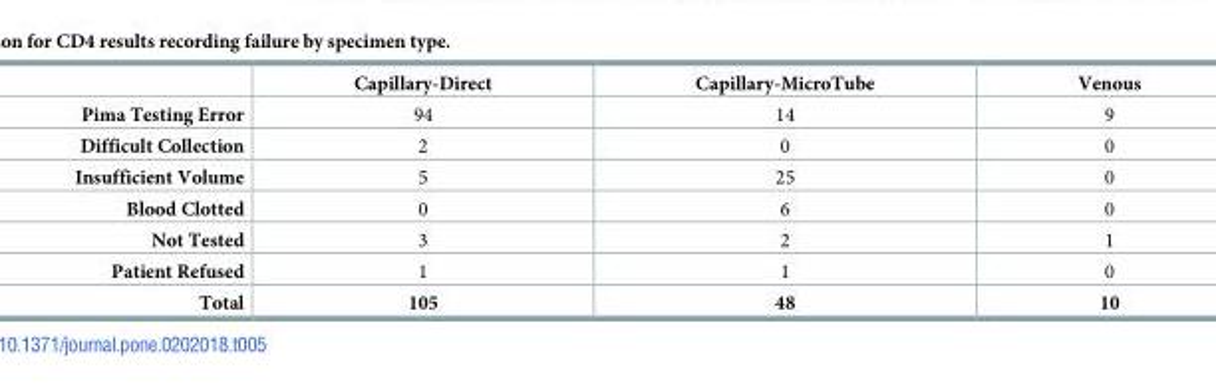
<table><thead><tr><td></td><td>Capillary-Direct</td><td>Capillary-MicroTube</td><td>Venous</td></tr></thead><tbody><tr><td>Pima Testing Error</td><td>94</td><td>14</td><td>9</td></tr><tr><td>Difficult Collection</td><td>2</td><td>0</td><td>0</td></tr><tr><td>Insufficient Volume</td><td>5</td><td>25</td><td>0</td></tr><tr><td>Blood Clotted</td><td>0</td><td>6</td><td>0</td></tr><tr><td>Not Tested</td><td>3</td><td>2</td><td>1</td></tr><tr><td>Patient Refused</td><td>1</td><td>1</td><td>0</td></tr><tr><td>Total</td><td>105</td><td>48</td><td>10</td></tr></tbody></table>